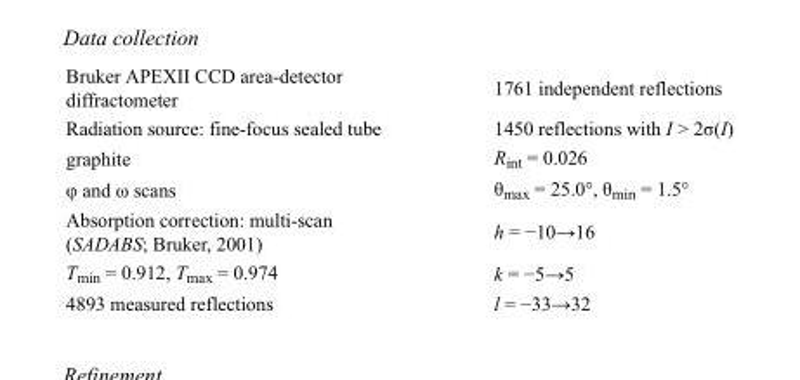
<table><tbody><tr><td>Bruker APEXII CCD area-detector diffractometer</td><td>1761 independent reflections</td></tr><tr><td>Radiation source: fine-focus sealed tube</td><td>1450 reflections with I &gt; 2σ(I)</td></tr><tr><td>graphite</td><td>R<sub>int</sub> = 0.026</td></tr><tr><td>φ and ω scans</td><td>θ<sub>max</sub> = 25.0°, θ<sub>min</sub> = 1.5°</td></tr><tr><td>Absorption correction: multi-scan (SADABS; Bruker, 2001)</td><td>h = −10→16</td></tr><tr><td>T<sub>min</sub> = 0.912, T<sub>max</sub> = 0.974</td><td>k = −5→5</td></tr><tr><td>4893 measured reflections</td><td>l = −33→32</td></tr></tbody></table>